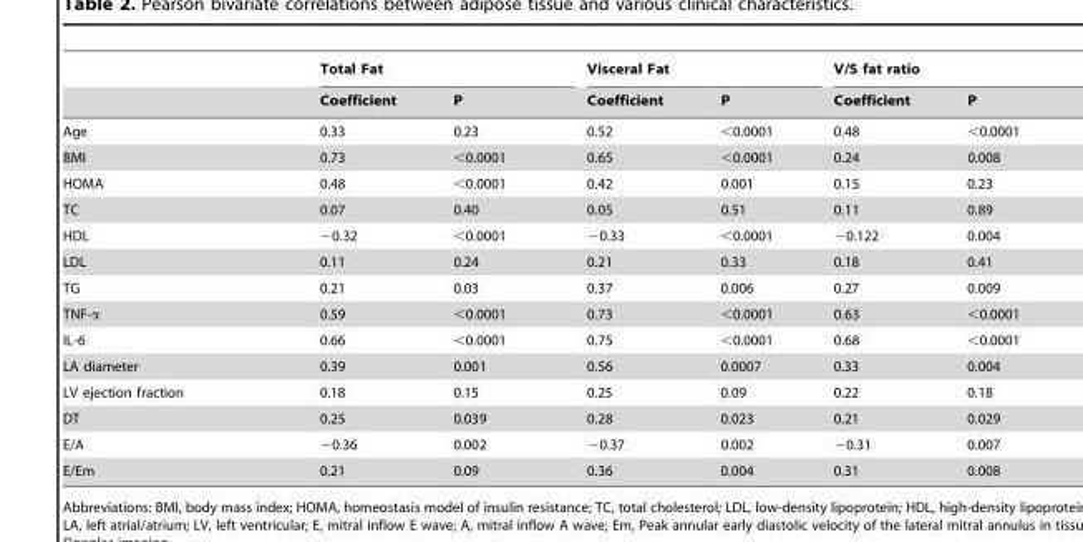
<table><thead><tr><td rowspan="2"></td><td colspan="2">Total Fat</td><td colspan="2">Visceral Fat</td><td colspan="2">V/S fat ratio</td></tr><tr><td>Coefficient</td><td>P</td><td>Coefficient</td><td>P</td><td>Coefficient</td><td>P</td></tr></thead><tbody><tr><td>Age</td><td>0.33</td><td>0.23</td><td>0.52</td><td>&lt;0.0001</td><td>0.48</td><td>&lt;0.0001</td></tr><tr><td>BMI</td><td>0.73</td><td>&lt;0.0001</td><td>0.65</td><td>&lt;0.0001</td><td>0.24</td><td>0.008</td></tr><tr><td>HOMA</td><td>0.48</td><td>&lt;0.0001</td><td>0.42</td><td>0.001</td><td>0.15</td><td>0.23</td></tr><tr><td>TC</td><td>0.07</td><td>0.40</td><td>0.05</td><td>0.51</td><td>0.11</td><td>0.89</td></tr><tr><td>HDL</td><td>−0.32</td><td>&lt;0.0001</td><td>−0.33</td><td>&lt;0.0001</td><td>−0.122</td><td>0.004</td></tr><tr><td>LDL</td><td>0.11</td><td>0.24</td><td>0.21</td><td>0.33</td><td>0.18</td><td>0.41</td></tr><tr><td>TG</td><td>0.21</td><td>0.03</td><td>0.37</td><td>0.006</td><td>0.27</td><td>0.009</td></tr><tr><td>TNF-α</td><td>0.59</td><td>&lt;0.0001</td><td>0.73</td><td>&lt;0.0001</td><td>0.63</td><td>&lt;0.0001</td></tr><tr><td>IL-6</td><td>0.66</td><td>&lt;0.0001</td><td>0.75</td><td>&lt;0.0001</td><td>0.68</td><td>&lt;0.0001</td></tr><tr><td>LA diameter</td><td>0.39</td><td>0.001</td><td>0.56</td><td>0.0007</td><td>0.33</td><td>0.004</td></tr><tr><td>LV ejection fraction</td><td>0.18</td><td>0.15</td><td>0.25</td><td>0.09</td><td>0.22</td><td>0.18</td></tr><tr><td>DT</td><td>0.25</td><td>0.039</td><td>0.28</td><td>0.023</td><td>0.21</td><td>0.029</td></tr><tr><td>E/A</td><td>−0.36</td><td>0.002</td><td>−0.37</td><td>0.002</td><td>−0.31</td><td>0.007</td></tr><tr><td>E/Em</td><td>0.21</td><td>0.09</td><td>0.36</td><td>0.004</td><td>0.31</td><td>0.008</td></tr></tbody></table>